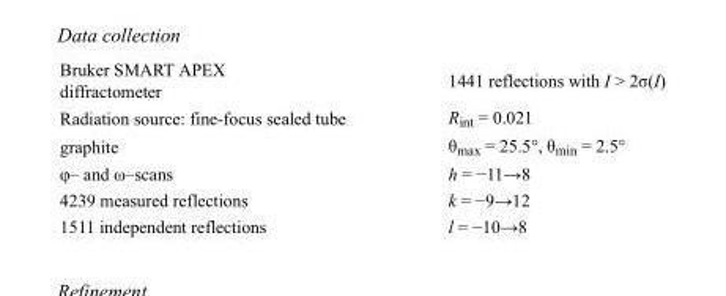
<table><tbody><tr><td>Bruker SMART APEX diffractometer</td><td>1441 reflections with I &gt; 2σ(I)</td></tr><tr><td>Radiation source: fine-focus sealed tube</td><td>R<sub>int</sub> = 0.021</td></tr><tr><td>graphite</td><td>θ<sub>max</sub> = 25.5°, θ<sub>min</sub> = 2.5°</td></tr><tr><td>φ– and ω–scans</td><td>h = −11→8</td></tr><tr><td>4239 measured reflections</td><td>k = −9→12</td></tr><tr><td>1511 independent reflections</td><td>l = −10→8</td></tr></tbody></table>